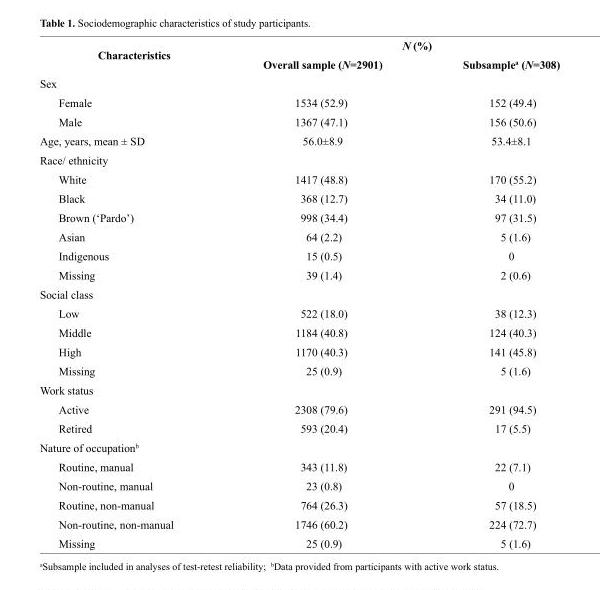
<table><thead><tr><td rowspan="2">Characteristics</td><td colspan="2">N (%)</td></tr><tr><td>Overall sample (N=2901)</td><td>Subsamplea (N=308)</td></tr></thead><tbody><tr><td colspan="3">Sex</td></tr><tr><td>Female</td><td>1534 (52.9)</td><td>152 (49.4)</td></tr><tr><td>Male</td><td>1367 (47.1)</td><td>156 (50.6)</td></tr><tr><td>Age, years, mean ± SD</td><td>56.0±8.9</td><td>53.4±8.1</td></tr><tr><td colspan="3">Race/ ethnicity</td></tr><tr><td>White</td><td>1417 (48.8)</td><td>170 (55.2)</td></tr><tr><td>Black</td><td>368 (12.7)</td><td>34 (11.0)</td></tr><tr><td>Brown (‘Pardo’)</td><td>998 (34.4)</td><td>97 (31.5)</td></tr><tr><td>Asian</td><td>64 (2.2)</td><td>5 (1.6)</td></tr><tr><td>Indigenous</td><td>15 (0.5)</td><td>0</td></tr><tr><td>Missing</td><td>39 (1.4)</td><td>2 (0.6)</td></tr><tr><td colspan="3">Social class</td></tr><tr><td>Low</td><td>522 (18.0)</td><td>38 (12.3)</td></tr><tr><td>Middle</td><td>1184 (40.8)</td><td>124 (40.3)</td></tr><tr><td>High</td><td>1170 (40.3)</td><td>141 (45.8)</td></tr><tr><td>Missing</td><td>25 (0.9)</td><td>5 (1.6)</td></tr><tr><td colspan="3">Work status</td></tr><tr><td>Active</td><td>2308 (79.6)</td><td>291 (94.5)</td></tr><tr><td>Retired</td><td>593 (20.4)</td><td>17 (5.5)</td></tr><tr><td colspan="3">Nature of occupation<sup>b</sup></td></tr><tr><td>Routine, manual</td><td>343 (11.8)</td><td>22 (7.1)</td></tr><tr><td>Non-routine, manual</td><td>23 (0.8)</td><td>0</td></tr><tr><td>Routine, non-manual</td><td>764 (26.3)</td><td>57 (18.5)</td></tr><tr><td>Non-routine, non-manual</td><td>1746 (60.2)</td><td>224 (72.7)</td></tr><tr><td>Missing</td><td>25 (0.9)</td><td>5 (1.6)</td></tr></tbody></table>